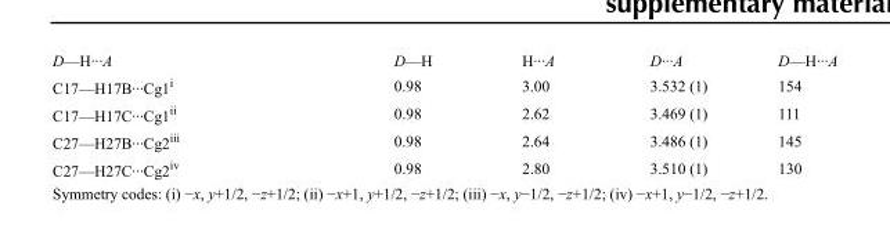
<table><tbody><tr><td>D—H···A</td><td>D—H</td><td>H···A</td><td>D···A</td><td>D—H···A</td></tr><tr><td>C17—H17B···Cg1<sup>i</sup></td><td>0.98</td><td>3.00</td><td>3.532 (1)</td><td>154</td></tr><tr><td>C17—H17C···Cg1<sup>ii</sup></td><td>0.98</td><td>2.62</td><td>3.469 (1)</td><td>111</td></tr><tr><td>C27—H27B···Cg2<sup>iii</sup></td><td>0.98</td><td>2.64</td><td>3.486 (1)</td><td>145</td></tr><tr><td>C27—H27C···Cg2<sup>iv</sup></td><td>0.98</td><td>2.80</td><td>3.510 (1)</td><td>130</td></tr></tbody></table>